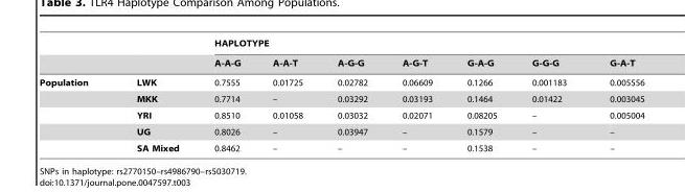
<table><thead><tr><td rowspan="2"></td><td rowspan="2"></td><td colspan="7">HAPLOTYPE</td></tr><tr><td>A-A-G</td><td>A-A-T</td><td>A-G-G</td><td>A-G-T</td><td>G-A-G</td><td>G-G-G</td><td>G-A-T</td></tr></thead><tbody><tr><td rowspan="5">Population</td><td>LWK</td><td>0.7555</td><td>0.01725</td><td>0.02782</td><td>0.06609</td><td>0.1266</td><td>0.001183</td><td>0.005556</td></tr><tr><td>MKK</td><td>0.7714</td><td>–</td><td>0.03292</td><td>0.03193</td><td>0.1464</td><td>0.01422</td><td>0.003045</td></tr><tr><td>YRI</td><td>0.8510</td><td>0.01058</td><td>0.03032</td><td>0.02071</td><td>0.08205</td><td>–</td><td>0.005004</td></tr><tr><td>UG</td><td>0.8026</td><td>–</td><td>0.03947</td><td>–</td><td>0.1579</td><td>–</td><td>–</td></tr><tr><td>SA Mixed</td><td>0.8462</td><td>–</td><td>–</td><td>–</td><td>0.1538</td><td>–</td><td>–</td></tr></tbody></table>